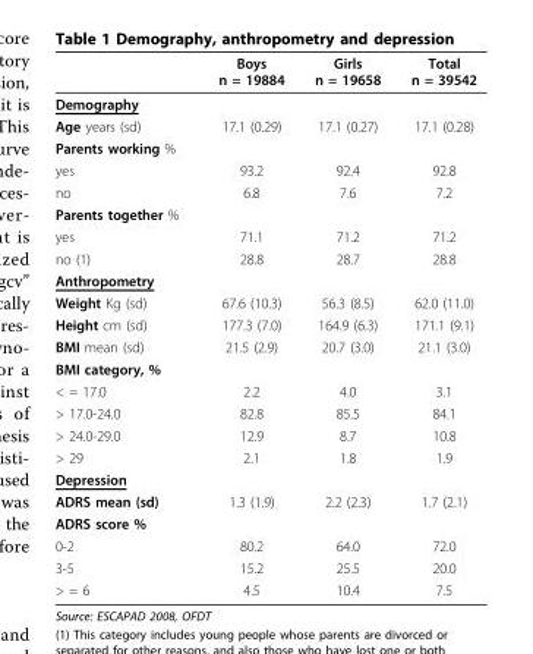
<table><thead><tr><td></td><td>Boys n = 19884</td><td>Girls n = 19658</td><td>Total n = 39542</td></tr></thead><tbody><tr><td colspan="4">Demography</td></tr><tr><td>Age years (sd)</td><td>17.1 (0.29)</td><td>17.1 (0.27)</td><td>17.1 (0.28)</td></tr><tr><td colspan="4">Parents working %</td></tr><tr><td>yes</td><td>93.2</td><td>92.4</td><td>92.8</td></tr><tr><td>no</td><td>6.8</td><td>7.6</td><td>7.2</td></tr><tr><td colspan="4">Parents together %</td></tr><tr><td>yes</td><td>71.1</td><td>71.2</td><td>71.2</td></tr><tr><td>no (1)</td><td>28.8</td><td>28.7</td><td>28.8</td></tr><tr><td colspan="4">Anthropometry</td></tr><tr><td>Weight Kg (sd)</td><td>67.6 (10.3)</td><td>56.3 (8.5)</td><td>62.0 (11.0)</td></tr><tr><td>Height cm (sd)</td><td>177.3 (7.0)</td><td>164.9 (6.3)</td><td>171.1 (9.1)</td></tr><tr><td>BMI mean (sd)</td><td>21.5 (2.9)</td><td>20.7 (3.0)</td><td>21.1 (3.0)</td></tr><tr><td colspan="4">BMI category, %</td></tr><tr><td>&lt; = 17.0</td><td>2.2</td><td>4.0</td><td>3.1</td></tr><tr><td>&gt; 17.0-24.0</td><td>82.8</td><td>85.5</td><td>84.1</td></tr><tr><td>&gt; 24.0-29.0</td><td>12.9</td><td>8.7</td><td>10.8</td></tr><tr><td>&gt; 29</td><td>2.1</td><td>1.8</td><td>1.9</td></tr><tr><td colspan="4">Depression</td></tr><tr><td>ADRS mean (sd)</td><td>1.3 (1.9)</td><td>2.2 (2.3)</td><td>1.7 (2.1)</td></tr><tr><td colspan="4">ADRS score %</td></tr><tr><td>0-2</td><td>80.2</td><td>64.0</td><td>72.0</td></tr><tr><td>3-5</td><td>15.2</td><td>25.5</td><td>20.0</td></tr><tr><td>&gt; = 6</td><td>4.5</td><td>10.4</td><td>7.5</td></tr></tbody></table>